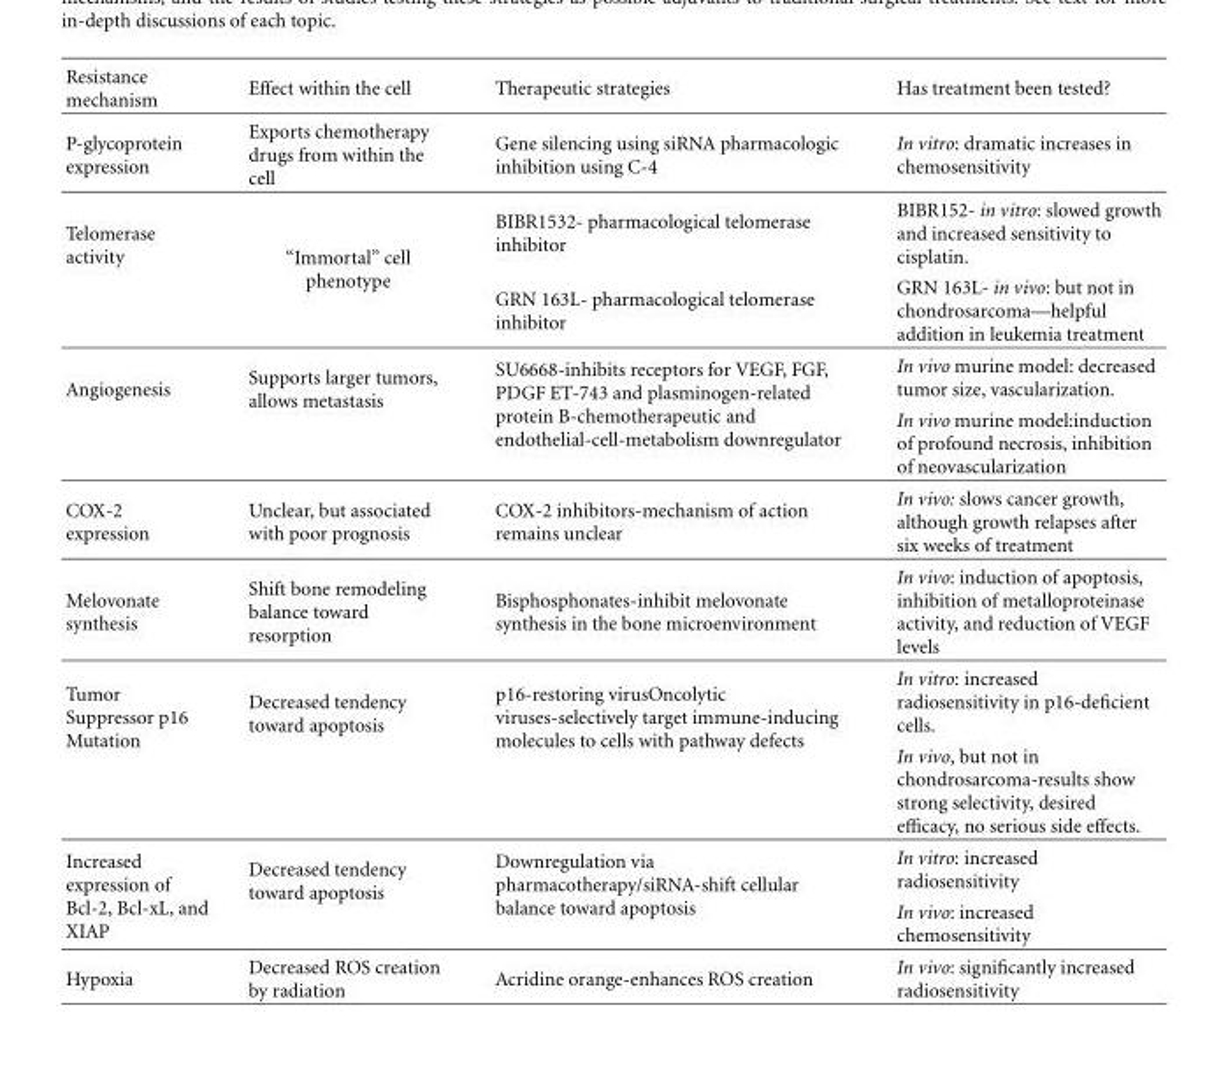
<table><thead><tr><td>Resistance mechanism</td><td>Effect within the cell</td><td>Therapeutic strategies</td><td>Has treatment been tested?</td></tr></thead><tbody><tr><td>P-glycoprotein expression</td><td>Exports chemotherapy drugs from within the cell</td><td>Gene silencing using siRNA pharmacologic inhibition using C-4</td><td>In vitro: dramatic increases in chemosensitivity</td></tr><tr><td rowspan="2">Telomerase activity</td><td rowspan="2">“Immortal” cell phenotype</td><td>BIBR1532- pharmacological telomerase inhibitor</td><td>BIBR152- in vitro: slowed growth and increased sensitivity to cisplatin.</td></tr><tr><td>GRN 163L- pharmacological telomerase inhibitor</td><td>GRN 163L- in vivo: but not in chondrosarcoma—helpful addition in leukemia treatment</td></tr><tr><td rowspan="2">Angiogenesis</td><td rowspan="2">Supports larger tumors, allows metastasis</td><td rowspan="2">SU6668-inhibits receptors for VEGF, FGF, PDGF ET-743 and plasminogen-related protein B-chemotherapeutic and endothelial-cell-metabolism downregulator</td><td>In vivo murine model: decreased tumor size, vascularization.</td></tr><tr><td>In vivo murine model:induction of profound necrosis, inhibition of neovascularization</td></tr><tr><td>COX-2 expression</td><td>Unclear, but associated with poor prognosis</td><td>COX-2 inhibitors-mechanism of action remains unclear</td><td>In vivo: slows cancer growth, although growth relapses after six weeks of treatment</td></tr><tr><td>Melovonate synthesis</td><td>Shift bone remodeling balance toward resorption</td><td>Bisphosphonates-inhibit melovonate synthesis in the bone microenvironment</td><td>In vivo: induction of apoptosis, inhibition of metalloproteinase activity, and reduction of VEGF levels</td></tr><tr><td rowspan="2">Tumor Suppressor p16 Mutation</td><td rowspan="2">Decreased tendency toward apoptosis</td><td rowspan="2">p16-restoring virusOncolytic viruses-selectively target immune-inducing molecules to cells with pathway defects</td><td>In vitro: increased radiosensitivity in p16-deficient cells.</td></tr><tr><td>In vivo, but not in chondrosarcoma-results show strong selectivity, desired efficacy, no serious side effects.</td></tr><tr><td rowspan="2">Increased expression of Bcl-2, Bcl-xL, and XIAP</td><td rowspan="2">Decreased tendency toward apoptosis</td><td rowspan="2">Downregulation via pharmacotherapy/siRNA-shift cellular balance toward apoptosis</td><td>In vitro: increased radiosensitivity</td></tr><tr><td>In vivo: increased chemosensitivity</td></tr><tr><td>Hypoxia</td><td>Decreased ROS creation by radiation</td><td>Acridine orange-enhances ROS creation</td><td>In vivo: significantly increased radiosensitivity</td></tr></tbody></table>